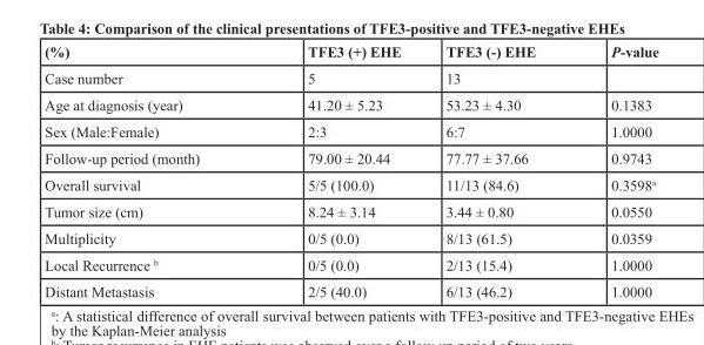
<table><thead><tr><td>(%)</td><td>TFE3 (+) EHE</td><td>TFE3 (-) EHE</td><td>P-value</td></tr></thead><tbody><tr><td>Case number</td><td>5</td><td>13</td><td></td></tr><tr><td>Age at diagnosis (year)</td><td>41.20 ± 5.23</td><td>53.23 ± 4.30</td><td>0.1383</td></tr><tr><td>Sex (Male:Female)</td><td>2:3</td><td>6:7</td><td>1.0000</td></tr><tr><td>Follow-up period (month)</td><td>79.00 ± 20.44</td><td>77.77 ± 37.66</td><td>0.9743</td></tr><tr><td>Overall survival</td><td>5/5 (100.0)</td><td>11/13 (84.6)</td><td>0.3598<sup>a</sup></td></tr><tr><td>Tumor size (cm)</td><td>8.24 ± 3.14</td><td>3.44 ± 0.80</td><td>0.0550</td></tr><tr><td>Multiplicity</td><td>0/5 (0.0)</td><td>8/13 (61.5)</td><td>0.0359</td></tr><tr><td>Local Recurrence <sup>b</sup></td><td>0/5 (0.0)</td><td>2/13 (15.4)</td><td>1.0000</td></tr><tr><td>Distant Metastasis</td><td>2/5 (40.0)</td><td>6/13 (46.2)</td><td>1.0000</td></tr></tbody></table>